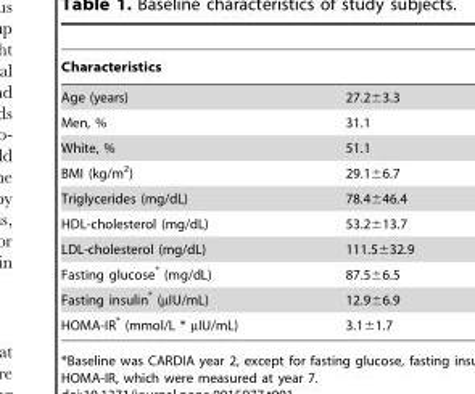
<table><thead><tr><td>Characteristics</td><td></td></tr></thead><tbody><tr><td>Age (years)</td><td>27.2±3.3</td></tr><tr><td>Men, %</td><td>31.1</td></tr><tr><td>White, %</td><td>51.1</td></tr><tr><td>BMI (kg/m<sup>2</sup>)</td><td>29.1±6.7</td></tr><tr><td>Triglycerides (mg/dL)</td><td>78.4±46.4</td></tr><tr><td>HDL-cholesterol (mg/dL)</td><td>53.2±13.7</td></tr><tr><td>LDL-cholesterol (mg/dL)</td><td>111.5±32.9</td></tr><tr><td>Fasting glucose* (mg/dL)</td><td>87.5±6.5</td></tr><tr><td>Fasting insulin* (µIU/mL)</td><td>12.9±6.9</td></tr><tr><td>HOMA-IR* (mmol/L * µIU/mL)</td><td>3.1±1.7</td></tr></tbody></table>